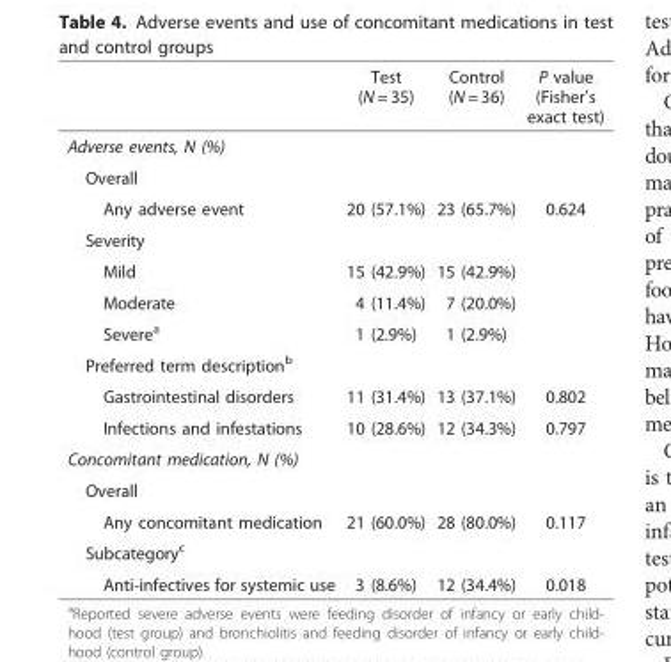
<table><thead><tr><td></td><td>Test (N = 35)</td><td>Control (N = 36)</td><td>P value (Fisher’s exact test)</td></tr></thead><tbody><tr><td colspan="4">Adverse events, N (%)</td></tr><tr><td colspan="4">Overall</td></tr><tr><td>Any adverse event</td><td>20 (57.1%)</td><td>23 (65.7%)</td><td>0.624</td></tr><tr><td colspan="4">Severity</td></tr><tr><td>Mild</td><td>15 (42.9%)</td><td>15 (42.9%)</td><td></td></tr><tr><td>Moderate</td><td>4 (11.4%)</td><td>7 (20.0%)</td><td></td></tr><tr><td>Severe<sup>a</sup></td><td>1 (2.9%)</td><td>1 (2.9%)</td><td></td></tr><tr><td colspan="4">Preferred term description<sup>b</sup></td></tr><tr><td>Gastrointestinal disorders</td><td>11 (31.4%)</td><td>13 (37.1%)</td><td>0.802</td></tr><tr><td>Infections and infestations</td><td>10 (28.6%)</td><td>12 (34.3%)</td><td>0.797</td></tr><tr><td colspan="4">Concomitant medication, N (%)</td></tr><tr><td colspan="4">Overall</td></tr><tr><td>Any concomitant medication</td><td>21 (60.0%)</td><td>28 (80.0%)</td><td>0.117</td></tr><tr><td colspan="4">Subcategory<sup>c</sup></td></tr><tr><td>Anti-infectives for systemic use</td><td>3 (8.6%)</td><td>12 (34.4%)</td><td>0.018</td></tr></tbody></table>